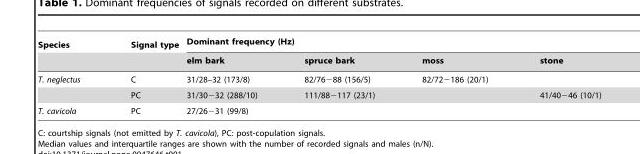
<table><thead><tr><td rowspan="2">Species</td><td rowspan="2">Signal type</td><td colspan="4">Dominant frequency (Hz)</td></tr><tr><td>elm bark</td><td>spruce bark</td><td>moss</td><td>stone</td></tr></thead><tbody><tr><td rowspan="2">T. neglectus</td><td>C</td><td>31/28–32 (173/8)</td><td>82/76−88 (156/5)</td><td>82/72−186 (20/1)</td><td></td></tr><tr><td>PC</td><td>31/30−32 (288/10)</td><td>111/88−117 (23/1)</td><td></td><td>41/40−46 (10/1)</td></tr><tr><td>T. cavicola</td><td>PC</td><td>27/26−31 (99/8)</td><td></td><td></td><td></td></tr></tbody></table>